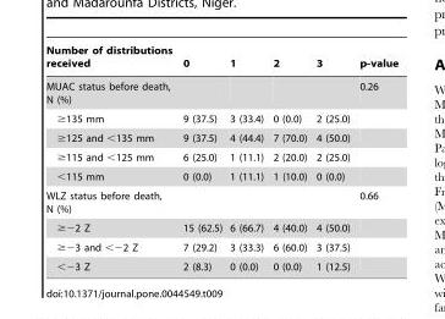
<table><thead><tr><td>Number of distributions received</td><td>0</td><td>1</td><td>2</td><td>3</td><td>p-value</td></tr></thead><tbody><tr><td>MUAC status before death, N (%)</td><td></td><td></td><td></td><td></td><td>0.26</td></tr><tr><td>≥135 mm</td><td>9 (37.5)</td><td>3 (33.4)</td><td>0 (0.0)</td><td>2 (25.0)</td><td></td></tr><tr><td>≥125 and &lt;135 mm</td><td>9 (37.5)</td><td>4 (44.4)</td><td>7 (70.0)</td><td>4 (50.0)</td><td></td></tr><tr><td>≥115 and &lt;125 mm</td><td>6 (25.0)</td><td>1 (11.1)</td><td>2 (20.0)</td><td>2 (25.0)</td><td></td></tr><tr><td>&lt;115 mm</td><td>0 (0.0)</td><td>1 (11.1)</td><td>1 (10.0)</td><td>0 (0.0)</td><td></td></tr><tr><td>WLZ status before death, N (%)</td><td></td><td></td><td></td><td></td><td>0.66</td></tr><tr><td>≥−2 Z</td><td>15 (62.5)</td><td>6 (66.7)</td><td>4 (40.0)</td><td>4 (50.0)</td><td></td></tr><tr><td>≥−3 and &lt;−2 Z</td><td>7 (29.2)</td><td>3 (33.3)</td><td>6 (60.0)</td><td>3 (37.5)</td><td></td></tr><tr><td>&lt;−3 Z</td><td>2 (8.3)</td><td>0 (0.0)</td><td>0 (0.0)</td><td>1 (12.5)</td><td></td></tr></tbody></table>